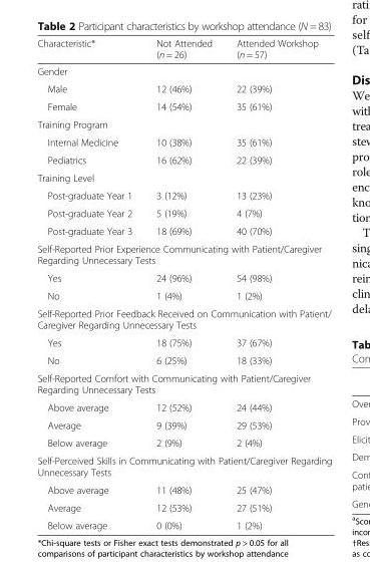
<table><thead><tr><td>Characteristic*</td><td>Not Attended (n = 26)</td><td>Attended Workshop (n = 57)</td></tr></thead><tbody><tr><td colspan="3">Gender</td></tr><tr><td>Male</td><td>12 (46%)</td><td>22 (39%)</td></tr><tr><td>Female</td><td>14 (54%)</td><td>35 (61%)</td></tr><tr><td colspan="3">Training Program</td></tr><tr><td>Internal Medicine</td><td>10 (38%)</td><td>35 (61%)</td></tr><tr><td>Pediatrics</td><td>16 (62%)</td><td>22 (39%)</td></tr><tr><td colspan="3">Training Level</td></tr><tr><td>Post-graduate Year 1</td><td>3 (12%)</td><td>13 (23%)</td></tr><tr><td>Post-graduate Year 2</td><td>5 (19%)</td><td>4 (7%)</td></tr><tr><td>Post-graduate Year 3</td><td>18 (69%)</td><td>40 (70%)</td></tr><tr><td colspan="3">Self-Reported Prior Experience Communicating with Patient/Caregiver Regarding Unnecessary Tests</td></tr><tr><td>Yes</td><td>24 (96%)</td><td>54 (98%)</td></tr><tr><td>No</td><td>1 (4%)</td><td>1 (2%)</td></tr><tr><td colspan="3">Self-Reported Prior Feedback Received on Communication with Patient/ Caregiver Regarding Unnecessary Tests</td></tr><tr><td>Yes</td><td>18 (75%)</td><td>37 (67%)</td></tr><tr><td>No</td><td>6 (25%)</td><td>18 (33%)</td></tr><tr><td colspan="3">Self-Reported Comfort with Communicating with Patient/Caregiver Regarding Unnecessary Tests</td></tr><tr><td>Above average</td><td>12 (52%)</td><td>24 (44%)</td></tr><tr><td>Average</td><td>9 (39%)</td><td>29 (53%)</td></tr><tr><td>Below average</td><td>2 (9%)</td><td>2 (4%)</td></tr><tr><td colspan="3">Self-Perceived Skills in Communicating with Patient/Caregiver Regarding Unnecessary Tests</td></tr><tr><td>Above average</td><td>11 (48%)</td><td>25 (47%)</td></tr><tr><td>Average</td><td>12 (53%)</td><td>27 (51%)</td></tr><tr><td>Below average</td><td>0 (0%)</td><td>1 (2%)</td></tr></tbody></table>